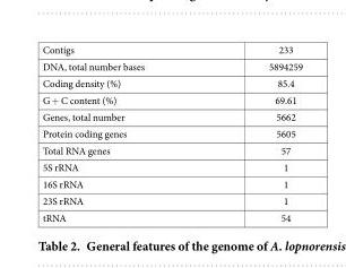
<table><tbody><tr><td>Contigs</td><td>233</td></tr><tr><td>DNA, total number bases</td><td>5894259</td></tr><tr><td>Coding density (%)</td><td>85.4</td></tr><tr><td>G + C content (%)</td><td>69.61</td></tr><tr><td>Genes, total number</td><td>5662</td></tr><tr><td>Protein coding genes</td><td>5605</td></tr><tr><td>Total RNA genes</td><td>57</td></tr><tr><td>5S rRNA</td><td>1</td></tr><tr><td>16S rRNA</td><td>1</td></tr><tr><td>23S rRNA</td><td>1</td></tr><tr><td>tRNA</td><td>54</td></tr></tbody></table>